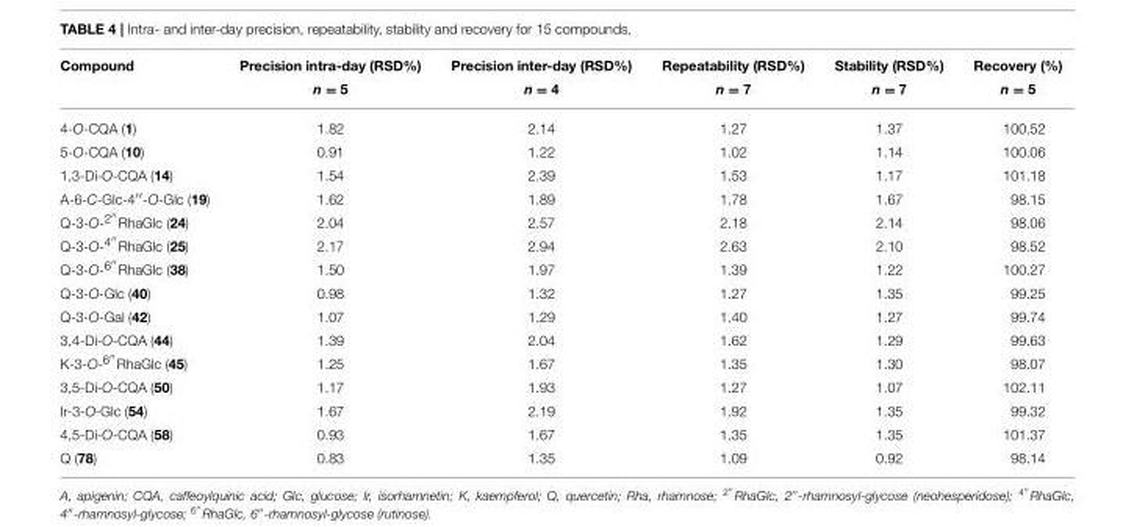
<table><thead><tr><td rowspan="2">Compound</td><td rowspan="2">Precision intra-day (RSD%) n = 5</td><td rowspan="2">Precision inter-day (RSD%) n = 4</td><td rowspan="2">Repeatability (RSD%) n = 7</td><td rowspan="2">Stability (RSD%) n = 7</td><td rowspan="2">Recovery (%) n = 5</td></tr><tr></tr></thead><tbody><tr><td>4-O-CQA (1)</td><td>1.82</td><td>2.14</td><td>1.27</td><td>1.37</td><td>100.52</td></tr><tr><td>5-O-CQA (10)</td><td>0.91</td><td>1.22</td><td>1.02</td><td>1.14</td><td>100.06</td></tr><tr><td>1,3-Di-O-CQA (14)</td><td>1.54</td><td>2.39</td><td>1.53</td><td>1.17</td><td>101.18</td></tr><tr><td>A-6-C-Glc-4′′-O-Glc (19)</td><td>1.62</td><td>1.89</td><td>1.78</td><td>1.67</td><td>98.15</td></tr><tr><td>Q-3-O-<sup>2</sup>′′RhaGlc (24)</td><td>2.04</td><td>2.57</td><td>2.18</td><td>2.14</td><td>98.06</td></tr><tr><td>Q-3-O-<sup>4</sup>′′RhaGlc (25)</td><td>2.17</td><td>2.94</td><td>2.63</td><td>2.10</td><td>98.52</td></tr><tr><td>Q-3-O-<sup>6</sup>′′RhaGlc (38)</td><td>1.50</td><td>1.97</td><td>1.39</td><td>1.22</td><td>100.27</td></tr><tr><td>Q-3-O-Glc (40)</td><td>0.98</td><td>1.32</td><td>1.27</td><td>1.35</td><td>99.25</td></tr><tr><td>Q-3-O-Gal (42)</td><td>1.07</td><td>1.29</td><td>1.40</td><td>1.27</td><td>99.74</td></tr><tr><td>3,4-Di-O-CQA (44)</td><td>1.39</td><td>2.04</td><td>1.62</td><td>1.29</td><td>99.63</td></tr><tr><td>K-3-O-<sup>6</sup>′′RhaGlc (45)</td><td>1.25</td><td>1.67</td><td>1.35</td><td>1.30</td><td>98.07</td></tr><tr><td>3,5-Di-O-CQA (50)</td><td>1.17</td><td>1.93</td><td>1.27</td><td>1.07</td><td>102.11</td></tr><tr><td>Ir-3-O-Glc (54)</td><td>1.67</td><td>2.19</td><td>1.92</td><td>1.35</td><td>99.32</td></tr><tr><td>4,5-Di-O-CQA (58)</td><td>0.93</td><td>1.67</td><td>1.35</td><td>1.35</td><td>101.37</td></tr><tr><td>Q (78)</td><td>0.83</td><td>1.35</td><td>1.09</td><td>0.92</td><td>98.14</td></tr></tbody></table>